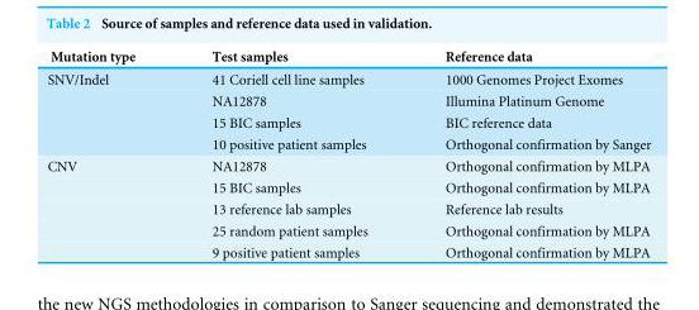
<table><thead><tr><td>Mutation type</td><td>Test samples</td><td>Reference data</td></tr></thead><tbody><tr><td rowspan="4">SNV/Indel</td><td>41 Coriell cell line samples</td><td>1000 Genomes Project Exomes</td></tr><tr><td>NA12878</td><td>Illumina Platinum Genome</td></tr><tr><td>15 BIC samples</td><td>BIC reference data</td></tr><tr><td>10 positive patient samples</td><td>Orthogonal confirmation by Sanger</td></tr><tr><td rowspan="5">CNV</td><td>NA12878</td><td>Orthogonal confirmation by MLPA</td></tr><tr><td>15 BIC samples</td><td>Orthogonal confirmation by MLPA</td></tr><tr><td>13 reference lab samples</td><td>Reference lab results</td></tr><tr><td>25 random patient samples</td><td>Orthogonal confirmation by MLPA</td></tr><tr><td>9 positive patient samples</td><td>Orthogonal confirmation by MLPA</td></tr></tbody></table>